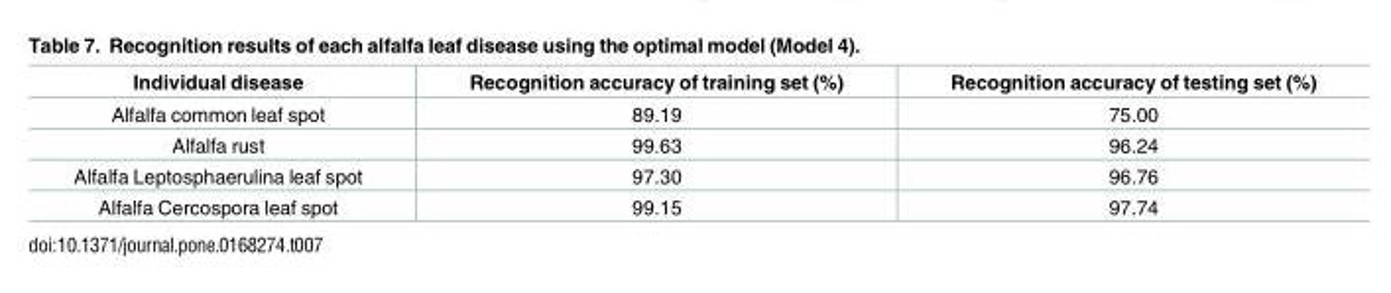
<table><thead><tr><td>Individual disease</td><td>Recognition accuracy of training set (%)</td><td>Recognition accuracy of testing set (%)</td></tr></thead><tbody><tr><td>Alfalfa common leaf spot</td><td>89.19</td><td>75.00</td></tr><tr><td>Alfalfa rust</td><td>99.63</td><td>96.24</td></tr><tr><td>Alfalfa Leptosphaerulina leaf spot</td><td>97.30</td><td>96.76</td></tr><tr><td>Alfalfa Cercospora leaf spot</td><td>99.15</td><td>97.74</td></tr></tbody></table>